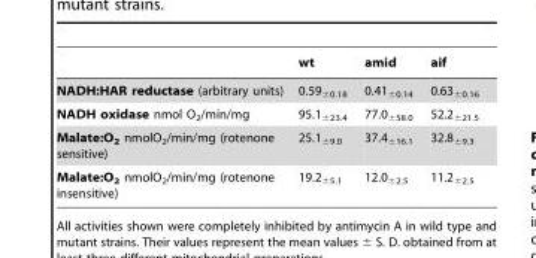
<table><thead><tr><td></td><td>wt</td><td>amid</td><td>aif</td></tr></thead><tbody><tr><td>NADH:HAR reductase (arbitrary units)</td><td>0.59<sub>±0.18</sub></td><td>0.41<sub>±0.14</sub></td><td>0.63<sub>±0.16</sub></td></tr><tr><td>NADH oxidase nmol O<sub>2</sub>/min/mg</td><td>95.1<sub>±23.4</sub></td><td>77.0<sub>±58.0</sub></td><td>52.2<sub>±21.5</sub></td></tr><tr><td>Malate:O<sub>2</sub> nmolO<sub>2</sub>/min/mg (rotenone sensitive)</td><td>25.1<sub>±9.0</sub></td><td>37.4<sub>±16.1</sub></td><td>32.8<sub>±9.3</sub></td></tr><tr><td>Malate:O<sub>2</sub> nmolO<sub>2</sub>/min/mg (rotenone insensitive)</td><td>19.2<sub>±5.1</sub></td><td>12.0<sub>±2.5</sub></td><td>11.2<sub>±2.5</sub></td></tr></tbody></table>